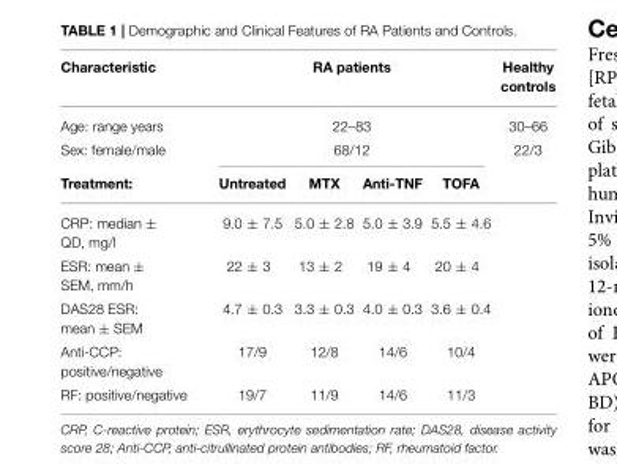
<table><thead><tr><td rowspan="4">Characteristic Age: range years Sex: female/male Treatment:</td><td rowspan="3" colspan="4">RA patients 22–83 68/12</td><td rowspan="4">Healthy controls 30–66 22/3</td></tr><tr></tr><tr></tr><tr><td>Untreated</td><td>MTX</td><td>Anti-TNF</td><td>TOFA</td></tr></thead><tbody><tr><td>CRP: median ± QD, mg/l</td><td>9.0 ± 7.5</td><td>5.0 ± 2.8</td><td>5.0 ± 3.9</td><td>5.5 ± 4.6</td><td></td></tr><tr><td>ESR: mean ± SEM, mm/h</td><td>22 ± 3</td><td>13 ± 2</td><td>19 ± 4</td><td>20 ± 4</td><td></td></tr><tr><td>DAS28 ESR: mean ± SEM</td><td>4.7 ± 0.3</td><td>3.3 ± 0.3</td><td>4.0 ± 0.3</td><td>3.6 ± 0.4</td><td></td></tr><tr><td>Anti-CCP: positive/negative</td><td>17/9</td><td>12/8</td><td>14/6</td><td>10/4</td><td></td></tr><tr><td>RF: positive/negative</td><td>19/7</td><td>11/9</td><td>14/6</td><td>11/3</td><td></td></tr></tbody></table>